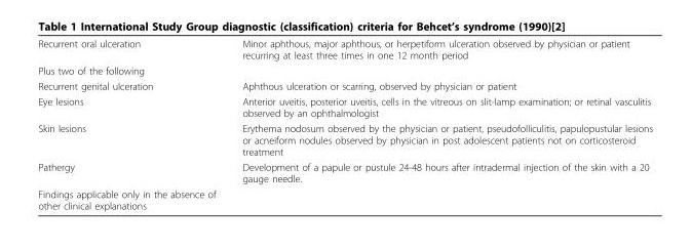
<table><tbody><tr><td>Recurrent oral ulceration</td><td>Minor aphthous, major aphthous, or herpetiform ulceration observed by physician or patient recurring at least three times in one 12 month period</td></tr><tr><td colspan="2">Plus two of the following</td></tr><tr><td>Recurrent genital ulceration</td><td>Aphthous ulceration or scarring, observed by physician or patient</td></tr><tr><td>Eye lesions</td><td>Anterior uveitis, posterior uveitis, cells in the vitreous on slit-lamp examination; or retinal vasculitis observed by an ophthalmologist</td></tr><tr><td>Skin lesions</td><td>Erythema nodosum observed by the physician or patient, pseudofolliculitis, papulopustular lesions or acneiform nodules observed by physician in post adolescent patients not on corticosteroid treatment</td></tr><tr><td>Pathergy</td><td>Development of a papule or pustule 24-48 hours after intradermal injection of the skin with a 20 gauge needle.</td></tr><tr><td>Findings applicable only in the absence of other clinical explanations</td><td></td></tr></tbody></table>